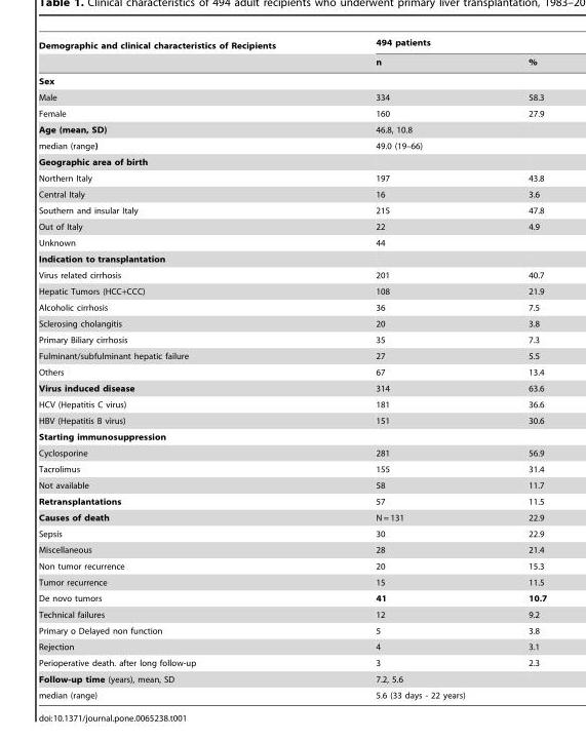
<table><thead><tr><td rowspan="2">Demographic and clinical characteristics of Recipients</td><td colspan="2">494 patients</td></tr><tr><td>n</td><td>%</td></tr></thead><tbody><tr><td colspan="3">Sex</td></tr><tr><td>Male</td><td>334</td><td>58.3</td></tr><tr><td>Female</td><td>160</td><td>27.9</td></tr><tr><td>Age (mean, SD)</td><td>46.8, 10.8</td><td></td></tr><tr><td>median (range)</td><td>49.0 (19–66)</td><td></td></tr><tr><td colspan="3">Geographic area of birth</td></tr><tr><td>Northern Italy</td><td>197</td><td>43.8</td></tr><tr><td>Central Italy</td><td>16</td><td>3.6</td></tr><tr><td>Southern and insular Italy</td><td>215</td><td>47.8</td></tr><tr><td>Out of Italy</td><td>22</td><td>4.9</td></tr><tr><td>Unknown</td><td>44</td><td></td></tr><tr><td colspan="3">Indication to transplantation</td></tr><tr><td>Virus related cirrhosis</td><td>201</td><td>40.7</td></tr><tr><td>Hepatic Tumors (HCC+CCC)</td><td>108</td><td>21.9</td></tr><tr><td>Alcoholic cirrhosis</td><td>36</td><td>7.5</td></tr><tr><td>Sclerosing cholangitis</td><td>20</td><td>3.8</td></tr><tr><td>Primary Biliary cirrhosis</td><td>35</td><td>7.3</td></tr><tr><td>Fulminant/subfulminant hepatic failure</td><td>27</td><td>5.5</td></tr><tr><td>Others</td><td>67</td><td>13.4</td></tr><tr><td>Virus induced disease</td><td>314</td><td>63.6</td></tr><tr><td>HCV (Hepatitis C virus)</td><td>181</td><td>36.6</td></tr><tr><td>HBV (Hepatitis B virus)</td><td>151</td><td>30.6</td></tr><tr><td colspan="3">Starting immunosuppression</td></tr><tr><td>Cyclosporine</td><td>281</td><td>56.9</td></tr><tr><td>Tacrolimus</td><td>155</td><td>31.4</td></tr><tr><td>Not available</td><td>58</td><td>11.7</td></tr><tr><td>Retransplantations</td><td>57</td><td>11.5</td></tr><tr><td>Causes of death</td><td>N = 131</td><td>22.9</td></tr><tr><td>Sepsis</td><td>30</td><td>22.9</td></tr><tr><td>Miscellaneous</td><td>28</td><td>21.4</td></tr><tr><td>Non tumor recurrence</td><td>20</td><td>15.3</td></tr><tr><td>Tumor recurrence</td><td>15</td><td>11.5</td></tr><tr><td>De novo tumors</td><td>41</td><td>10.7</td></tr><tr><td>Technical failures</td><td>12</td><td>9.2</td></tr><tr><td>Primary o Delayed non function</td><td>5</td><td>3.8</td></tr><tr><td>Rejection</td><td>4</td><td>3.1</td></tr><tr><td>Perioperative death. after long follow-up</td><td>3</td><td>2.3</td></tr><tr><td>Follow-up time (years), mean, SD</td><td>7.2, 5.6</td><td></td></tr><tr><td>median (range)</td><td>5.6 (33 days - 22 years)</td><td></td></tr></tbody></table>